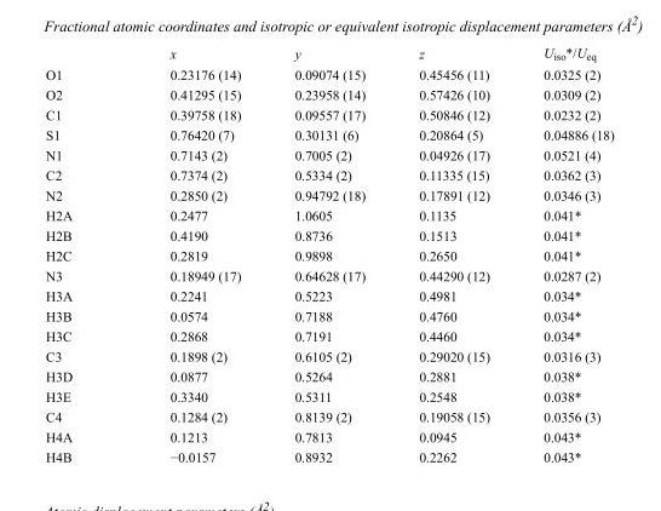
<table><thead><tr><td></td><td>x</td><td>y</td><td>z</td><td>U<sub>iso</sub>*/U<sub>eq</sub></td></tr></thead><tbody><tr><td>O1</td><td>0.23176 (14)</td><td>0.09074 (15)</td><td>0.45456 (11)</td><td>0.0325 (2)</td></tr><tr><td>O2</td><td>0.41295 (15)</td><td>0.23958 (14)</td><td>0.57426 (10)</td><td>0.0309 (2)</td></tr><tr><td>C1</td><td>0.39758 (18)</td><td>0.09557 (17)</td><td>0.50846 (12)</td><td>0.0232 (2)</td></tr><tr><td>S1</td><td>0.76420 (7)</td><td>0.30131 (6)</td><td>0.20864 (5)</td><td>0.04886 (18)</td></tr><tr><td>N1</td><td>0.7143 (2)</td><td>0.7005 (2)</td><td>0.04926 (17)</td><td>0.0521 (4)</td></tr><tr><td>C2</td><td>0.7374 (2)</td><td>0.5334 (2)</td><td>0.11335 (15)</td><td>0.0362 (3)</td></tr><tr><td>N2</td><td>0.2850 (2)</td><td>0.94792 (18)</td><td>0.17891 (12)</td><td>0.0346 (3)</td></tr><tr><td>H2A</td><td>0.2477</td><td>1.0605</td><td>0.1135</td><td>0.041*</td></tr><tr><td>H2B</td><td>0.4190</td><td>0.8736</td><td>0.1513</td><td>0.041*</td></tr><tr><td>H2C</td><td>0.2819</td><td>0.9898</td><td>0.2650</td><td>0.041*</td></tr><tr><td>N3</td><td>0.18949 (17)</td><td>0.64628 (17)</td><td>0.44290 (12)</td><td>0.0287 (2)</td></tr><tr><td>H3A</td><td>0.2241</td><td>0.5223</td><td>0.4981</td><td>0.034*</td></tr><tr><td>H3B</td><td>0.0574</td><td>0.7188</td><td>0.4760</td><td>0.034*</td></tr><tr><td>H3C</td><td>0.2868</td><td>0.7191</td><td>0.4460</td><td>0.034*</td></tr><tr><td>C3</td><td>0.1898 (2)</td><td>0.6105 (2)</td><td>0.29020 (15)</td><td>0.0316 (3)</td></tr><tr><td>H3D</td><td>0.0877</td><td>0.5264</td><td>0.2881</td><td>0.038*</td></tr><tr><td>H3E</td><td>0.3340</td><td>0.5311</td><td>0.2548</td><td>0.038*</td></tr><tr><td>C4</td><td>0.1284 (2)</td><td>0.8139 (2)</td><td>0.19058 (15)</td><td>0.0356 (3)</td></tr><tr><td>H4A</td><td>0.1213</td><td>0.7813</td><td>0.0945</td><td>0.043*</td></tr><tr><td>H4B</td><td>−0.0157</td><td>0.8932</td><td>0.2262</td><td>0.043*</td></tr></tbody></table>